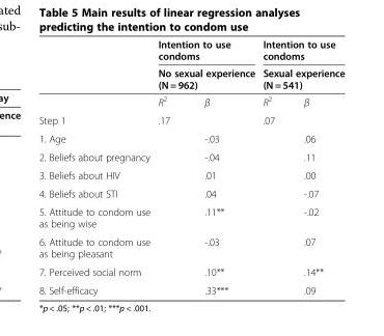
<table><thead><tr><td rowspan="3"></td><td rowspan="2" colspan="2">Intention to use condoms No sexual experience (N = 962)</td><td rowspan="2" colspan="2">Intention to use condoms Sexual experience (N = 541)</td></tr><tr></tr><tr><td>R<sup>2</sup></td><td>β</td><td>R<sup>2</sup></td><td>β</td></tr></thead><tbody><tr><td>Step 1</td><td>.17</td><td></td><td>.07</td><td></td></tr><tr><td>1. Age</td><td></td><td>-.03</td><td></td><td>.06</td></tr><tr><td>2. Beliefs about pregnancy</td><td></td><td>-.04</td><td></td><td>.11</td></tr><tr><td>3. Beliefs about HIV</td><td></td><td>.01</td><td></td><td>.00</td></tr><tr><td>4. Beliefs about STI</td><td></td><td>.04</td><td></td><td>-.07</td></tr><tr><td>5. Attitude to condom use as being wise</td><td></td><td>.11**</td><td></td><td>-.02</td></tr><tr><td>6. Attitude to condom use as being pleasant</td><td></td><td>-.03</td><td></td><td>.07</td></tr><tr><td>7. Perceived social norm</td><td></td><td>.10**</td><td></td><td>.14**</td></tr><tr><td>8. Self-efficacy</td><td></td><td>.33***</td><td></td><td>.09</td></tr></tbody></table>